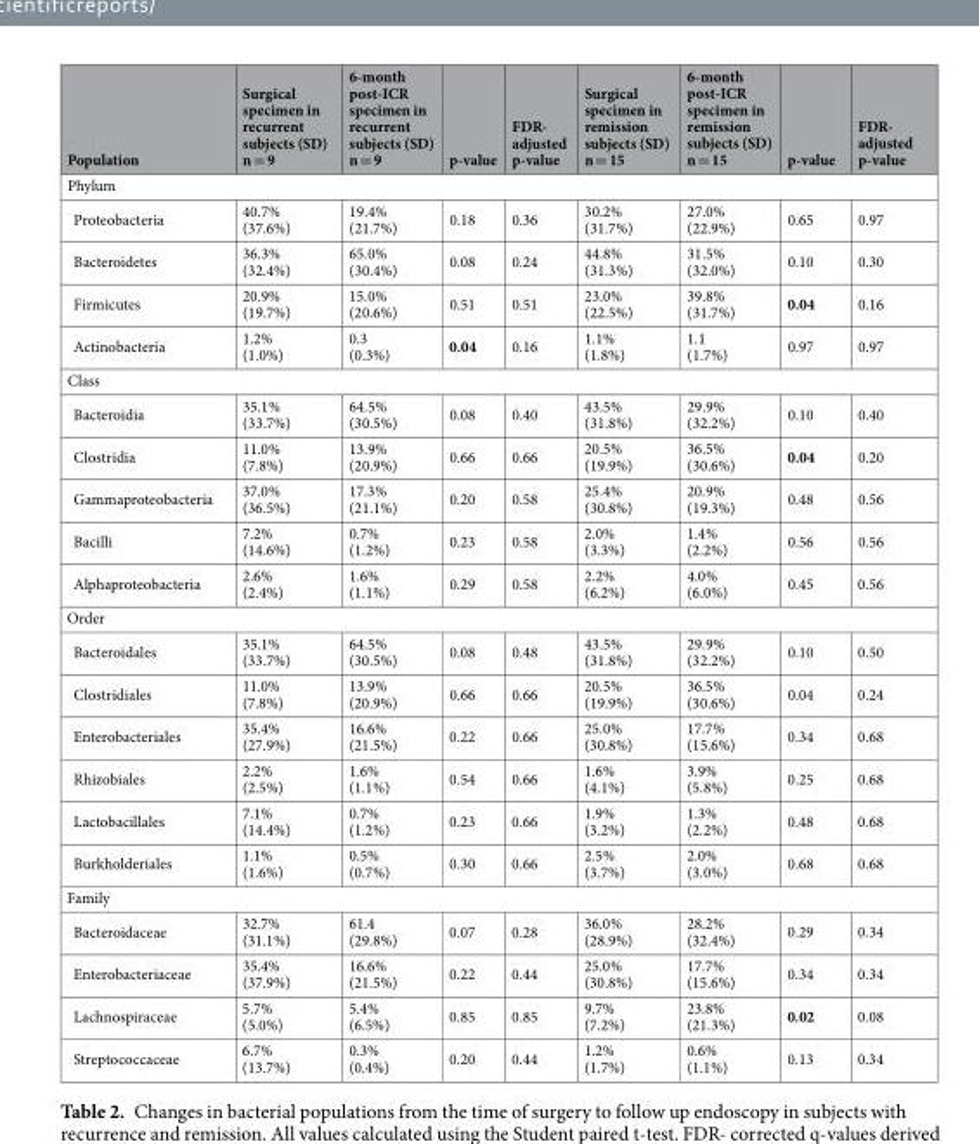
<table><thead><tr><td>Population</td><td>Surgical specimen in recurrent subjects (SD) n = 9</td><td>6-month post-ICR specimen in recurrent subjects (SD) n = 9</td><td>p-value</td><td>FDR- adjusted p-value</td><td>Surgical specimen in remission subjects (SD) n = 15</td><td>6-month post-ICR specimen in remission subjects (SD) n = 15</td><td>p-value</td><td>FDR- adjusted p-value</td></tr></thead><tbody><tr><td colspan="9">Phylum</td></tr><tr><td>Proteobacteria</td><td>40.7% (37.6%)</td><td>19.4% (21.7%)</td><td>0.18</td><td>0.36</td><td>30.2% (31.7%)</td><td>27.0% (22.9%)</td><td>0.65</td><td>0.97</td></tr><tr><td>Bacteroidetes</td><td>36.3% (32.4%)</td><td>65.0% (30.4%)</td><td>0.08</td><td>0.24</td><td>44.8% (31.3%)</td><td>31.5% (32.0%)</td><td>0.10</td><td>0.30</td></tr><tr><td>Firmicutes</td><td>20.9% (19.7%)</td><td>15.0% (20.6%)</td><td>0.51</td><td>0.51</td><td>23.0% (22.5%)</td><td>39.8% (31.7%)</td><td>0.04</td><td>0.16</td></tr><tr><td>Actinobacteria</td><td>1.2% (1.0%)</td><td>0.3 (0.3%)</td><td>0.04</td><td>0.16</td><td>1.1% (1.8%)</td><td>1.1 (1.7%)</td><td>0.97</td><td>0.97</td></tr><tr><td colspan="9">Class</td></tr><tr><td>Bacteroidia</td><td>35.1% (33.7%)</td><td>64.5% (30.5%)</td><td>0.08</td><td>0.40</td><td>43.5% (31.8%)</td><td>29.9% (32.2%)</td><td>0.10</td><td>0.40</td></tr><tr><td>Clostridia</td><td>11.0% (7.8%)</td><td>13.9% (20.9%)</td><td>0.66</td><td>0.66</td><td>20.5% (19.9%)</td><td>36.5% (30.6%)</td><td>0.04</td><td>0.20</td></tr><tr><td>Gammaproteobacteria</td><td>37.0% (36.5%)</td><td>17.3% (21.1%)</td><td>0.20</td><td>0.58</td><td>25.4% (30.8%)</td><td>20.9% (19.3%)</td><td>0.48</td><td>0.56</td></tr><tr><td>Bacilli</td><td>7.2% (14.6%)</td><td>0.7% (1.2%)</td><td>0.23</td><td>0.58</td><td>2.0% (3.3%)</td><td>1.4% (2.2%)</td><td>0.56</td><td>0.56</td></tr><tr><td>Alphaproteobacteria</td><td>2.6% (2.4%)</td><td>1.6% (1.1%)</td><td>0.29</td><td>0.58</td><td>2.2% (6.2%)</td><td>4.0% (6.0%)</td><td>0.45</td><td>0.56</td></tr><tr><td colspan="9">Order</td></tr><tr><td>Bacteroidales</td><td>35.1% (33.7%)</td><td>64.5% (30.5%)</td><td>0.08</td><td>0.48</td><td>43.5% (31.8%)</td><td>29.9% (32.2%)</td><td>0.10</td><td>0.50</td></tr><tr><td>Clostridiales</td><td>11.0% (7.8%)</td><td>13.9% (20.9%)</td><td>0.66</td><td>0.66</td><td>20.5% (19.9%)</td><td>36.5% (30.6%)</td><td>0.04</td><td>0.24</td></tr><tr><td>Enterobacteriales</td><td>35.4% (27.9%)</td><td>16.6% (21.5%)</td><td>0.22</td><td>0.66</td><td>25.0% (30.8%)</td><td>17.7% (15.6%)</td><td>0.34</td><td>0.68</td></tr><tr><td>Rhizobiales</td><td>2.2% (2.5%)</td><td>1.6% (1.1%)</td><td>0.54</td><td>0.66</td><td>1.6% (4.1%)</td><td>3.9% (5.8%)</td><td>0.25</td><td>0.68</td></tr><tr><td>Lactobacillales</td><td>7.1% (14.4%)</td><td>0.7% (1.2%)</td><td>0.23</td><td>0.66</td><td>1.9% (3.2%)</td><td>1.3% (2.2%)</td><td>0.48</td><td>0.68</td></tr><tr><td>Burkholderiales</td><td>1.1% (1.6%)</td><td>0.5% (0.7%)</td><td>0.30</td><td>0.66</td><td>2.5% (3.7%)</td><td>2.0% (3.0%)</td><td>0.68</td><td>0.68</td></tr><tr><td colspan="9">Family</td></tr><tr><td>Bacteroidaceae</td><td>32.7% (31.1%)</td><td>61.4 (29.8%)</td><td>0.07</td><td>0.28</td><td>36.0% (28.9%)</td><td>28.2% (32.4%)</td><td>0.29</td><td>0.34</td></tr><tr><td>Enterobacteriaceae</td><td>35.4% (37.9%)</td><td>16.6% (21.5%)</td><td>0.22</td><td>0.44</td><td>25.0% (30.8%)</td><td>17.7% (15.6%)</td><td>0.34</td><td>0.34</td></tr><tr><td>Lachnospiraceae</td><td>5.7% (5.0%)</td><td>5.4% (6.5%)</td><td>0.85</td><td>0.85</td><td>9.7% (7.2%)</td><td>23.8% (21.3%)</td><td>0.02</td><td>0.08</td></tr><tr><td>Streptococcaceae</td><td>6.7% (13.7%)</td><td>0.3% (0.4%)</td><td>0.20</td><td>0.44</td><td>1.2% (1.7%)</td><td>0.6% (1.1%)</td><td>0.13</td><td>0.34</td></tr></tbody></table>